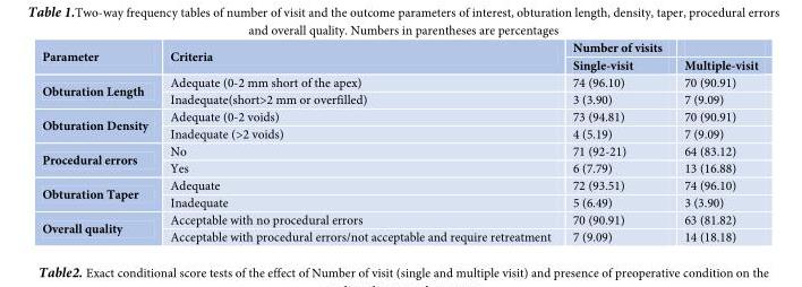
<table><thead><tr><td rowspan="2">Parameter</td><td rowspan="2">Criteria</td><td rowspan="2">Number of visits Single-visit</td><td rowspan="2">Multiple-visit</td></tr><tr></tr></thead><tbody><tr><td rowspan="2">Obturation Length</td><td>Adequate (0-2 mm short of the apex)</td><td>74 (96.10)</td><td>70 (90.91)</td></tr><tr><td>Inadequate(short&gt;2 mm or overfilled)</td><td>3 (3.90)</td><td>7 (9.09)</td></tr><tr><td rowspan="2">Obturation Density</td><td>Adequate (0-2 voids)</td><td>73 (94.81)</td><td>70 (90.91)</td></tr><tr><td>Inadequate (&gt;2 voids)</td><td>4 (5.19)</td><td>7 (9.09)</td></tr><tr><td rowspan="2">Procedural errors</td><td>No</td><td>71 (92-21)</td><td>64 (83.12)</td></tr><tr><td>Yes</td><td>6 (7.79)</td><td>13 (16.88)</td></tr><tr><td rowspan="2">Obturation Taper</td><td>Adequate</td><td>72 (93.51)</td><td>74 (96.10)</td></tr><tr><td>Inadequate</td><td>5 (6.49)</td><td>3 (3.90)</td></tr><tr><td rowspan="2">Overall quality</td><td>Acceptable with no procedural errors</td><td>70 (90.91)</td><td>63 (81.82)</td></tr><tr><td>Acceptable with procedural errors/not acceptable and require retreatment</td><td>7 (9.09)</td><td>14 (18.18)</td></tr></tbody></table>